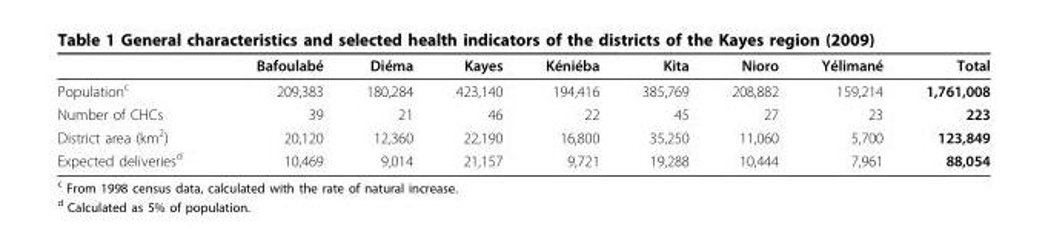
<table><thead><tr><td></td><td>Bafoulabé</td><td>Diéma</td><td>Kayes</td><td>Kéniéba</td><td>Kita</td><td>Nioro</td><td>Yélimané</td><td>Total</td></tr></thead><tbody><tr><td>Population<sup>c</sup></td><td>209,383</td><td>180,284</td><td>423,140</td><td>194,416</td><td>385,769</td><td>208,882</td><td>159,214</td><td>1,761,008</td></tr><tr><td>Number of CHCs</td><td>39</td><td>21</td><td>46</td><td>22</td><td>45</td><td>27</td><td>23</td><td>223</td></tr><tr><td>District area (km<sup>2</sup>)</td><td>20,120</td><td>12,360</td><td>22,190</td><td>16,800</td><td>35,250</td><td>11,060</td><td>5,700</td><td>123,849</td></tr><tr><td>Expected deliveries<sup>d</sup></td><td>10,469</td><td>9,014</td><td>21,157</td><td>9,721</td><td>19,288</td><td>10,444</td><td>7,961</td><td>88,054</td></tr></tbody></table>